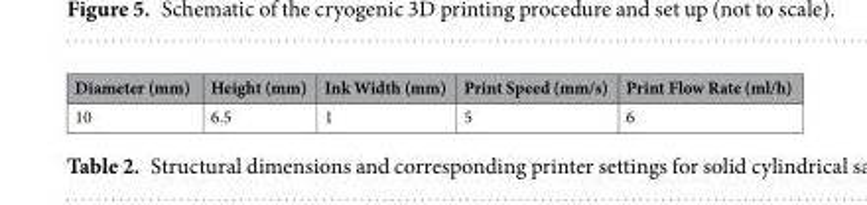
<table><thead><tr><td>Diameter (mm)</td><td>Height (mm)</td><td>Ink Width (mm)</td><td>Print Speed (mm/s)</td><td>Print Flow Rate (ml/h)</td></tr></thead><tbody><tr><td>10</td><td>6.5</td><td>1</td><td>5</td><td>6</td></tr></tbody></table>